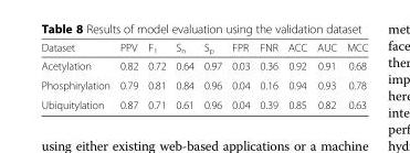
<table><thead><tr><td>Dataset</td><td>PPV</td><td>F<sub>1</sub></td><td>S<sub>n</sub></td><td>S<sub>p</sub></td><td>FPR</td><td>FNR</td><td>ACC</td><td>AUC</td><td>MCC</td></tr></thead><tbody><tr><td>Acetylation</td><td>0.82</td><td>0.72</td><td>0.64</td><td>0.97</td><td>0.03</td><td>0.36</td><td>0.92</td><td>0.91</td><td>0.68</td></tr><tr><td>Phosphirylation</td><td>0.79</td><td>0.81</td><td>0.84</td><td>0.96</td><td>0.04</td><td>0.16</td><td>0.94</td><td>0.93</td><td>0.78</td></tr><tr><td>Ubiquitylation</td><td>0.87</td><td>0.71</td><td>0.61</td><td>0.96</td><td>0.04</td><td>0.39</td><td>0.85</td><td>0.82</td><td>0.63</td></tr></tbody></table>